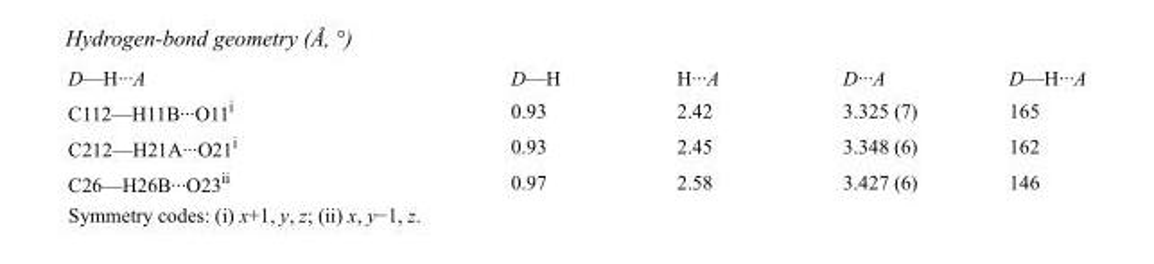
<table><tbody><tr><td>D—H···A</td><td>D—H</td><td>H···A</td><td>D···A</td><td>D—H···A</td></tr><tr><td>C112—H11B···O11<sup>i</sup></td><td>0.93</td><td>2.42</td><td>3.325 (7)</td><td>165</td></tr><tr><td>C212—H21A···O21<sup>i</sup></td><td>0.93</td><td>2.45</td><td>3.348 (6)</td><td>162</td></tr><tr><td>C26—H26B···O23<sup>ii</sup></td><td>0.97</td><td>2.58</td><td>3.427 (6)</td><td>146</td></tr></tbody></table>